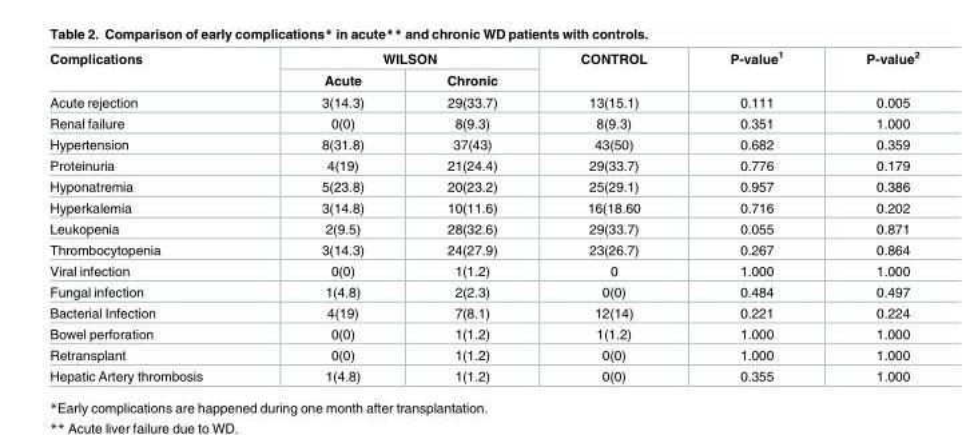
<table><thead><tr><td rowspan="2">Complications</td><td colspan="2">WILSON</td><td rowspan="2">CONTROL</td><td rowspan="2">P-value<sup>1</sup></td><td rowspan="2">P-value<sup>2</sup></td></tr><tr><td>Acute</td><td>Chronic</td></tr></thead><tbody><tr><td>Acute rejection</td><td>3(14.3)</td><td>29(33.7)</td><td>13(15.1)</td><td>0.111</td><td>0.005</td></tr><tr><td>Renal failure</td><td>0(0)</td><td>8(9.3)</td><td>8(9.3)</td><td>0.351</td><td>1.000</td></tr><tr><td>Hypertension</td><td>8(31.8)</td><td>37(43)</td><td>43(50)</td><td>0.682</td><td>0.359</td></tr><tr><td>Proteinuria</td><td>4(19)</td><td>21(24.4)</td><td>29(33.7)</td><td>0.776</td><td>0.179</td></tr><tr><td>Hyponatremia</td><td>5(23.8)</td><td>20(23.2)</td><td>25(29.1)</td><td>0.957</td><td>0.386</td></tr><tr><td>Hyperkalemia</td><td>3(14.8)</td><td>10(11.6)</td><td>16(18.60</td><td>0.716</td><td>0.202</td></tr><tr><td>Leukopenia</td><td>2(9.5)</td><td>28(32.6)</td><td>29(33.7)</td><td>0.055</td><td>0.871</td></tr><tr><td>Thrombocytopenia</td><td>3(14.3)</td><td>24(27.9)</td><td>23(26.7)</td><td>0.267</td><td>0.864</td></tr><tr><td>Viral infection</td><td>0(0)</td><td>1(1.2)</td><td>0</td><td>1.000</td><td>1.000</td></tr><tr><td>Fungal infection</td><td>1(4.8)</td><td>2(2.3)</td><td>0(0)</td><td>0.484</td><td>0.497</td></tr><tr><td>Bacterial Infection</td><td>4(19)</td><td>7(8.1)</td><td>12(14)</td><td>0.221</td><td>0.224</td></tr><tr><td>Bowel perforation</td><td>0(0)</td><td>1(1.2)</td><td>1(1.2)</td><td>1.000</td><td>1.000</td></tr><tr><td>Retransplant</td><td>0(0)</td><td>1(1.2)</td><td>0(0)</td><td>1.000</td><td>1.000</td></tr><tr><td>Hepatic Artery thrombosis</td><td>1(4.8)</td><td>1(1.2)</td><td>0(0)</td><td>0.355</td><td>1.000</td></tr></tbody></table>